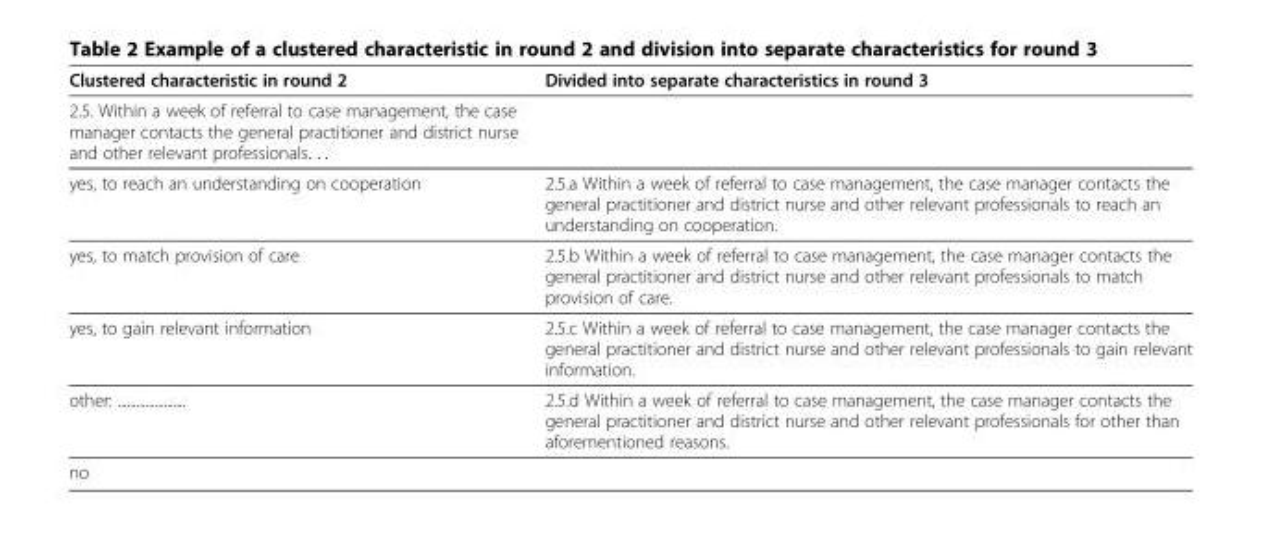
<table><thead><tr><td>Clustered characteristic in round 2</td><td>Divided into separate characteristics in round 3</td></tr></thead><tbody><tr><td colspan="2">2.5. Within a week of referral to case management, the case manager contacts the general practitioner and district nurse and other relevant professionals. . .</td></tr><tr><td>yes, to reach an understanding on cooperation</td><td>2.5.a Within a week of referral to case management, the case manager contacts the general practitioner and district nurse and other relevant professionals to reach an understanding on cooperation.</td></tr><tr><td>yes, to match provision of care</td><td>2.5.b Within a week of referral to case management, the case manager contacts the general practitioner and district nurse and other relevant professionals to match provision of care.</td></tr><tr><td>yes, to gain relevant information</td><td>2.5.c Within a week of referral to case management, the case manager contacts the general practitioner and district nurse and other relevant professionals to gain relevant information.</td></tr><tr><td>other: ......................</td><td>2.5.d Within a week of referral to case management, the case manager contacts the general practitioner and district nurse and other relevant professionals for other than aforementioned reasons.</td></tr><tr><td>no</td><td></td></tr></tbody></table>